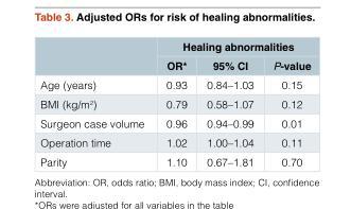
<table><thead><tr><td rowspan="2"></td><td colspan="3">Healing abnormalities</td></tr><tr><td>OR*</td><td>95% CI</td><td>P-value</td></tr></thead><tbody><tr><td>Age (years)</td><td>0.93</td><td>0.84–1.03</td><td>0.15</td></tr><tr><td>BMI (kg/m<sup>2</sup>)</td><td>0.79</td><td>0.58–1.07</td><td>0.12</td></tr><tr><td>Surgeon case volume</td><td>0.96</td><td>0.94–0.99</td><td>0.01</td></tr><tr><td>Operation time</td><td>1.02</td><td>1.00–1.04</td><td>0.11</td></tr><tr><td>Parity</td><td>1.10</td><td>0.67–1.81</td><td>0.70</td></tr></tbody></table>